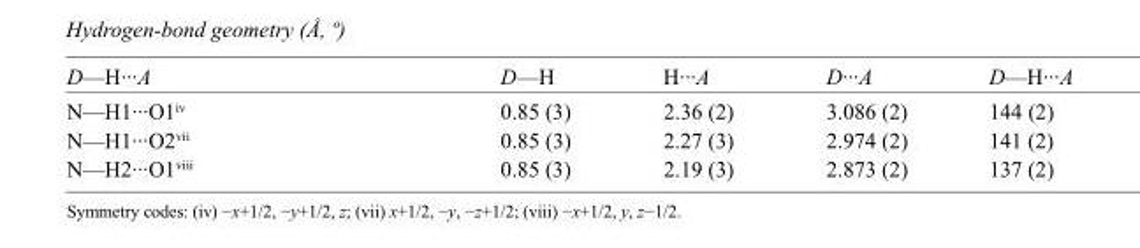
<table><tbody><tr><td>D—H···A</td><td>D—H</td><td>H···A</td><td>D···A</td><td>D—H···A</td></tr><tr><td>N—H1···O1<sup>iv</sup></td><td>0.85 (3)</td><td>2.36 (2)</td><td>3.086 (2)</td><td>144 (2)</td></tr><tr><td>N—H1···O2<sup>vii</sup></td><td>0.85 (3)</td><td>2.27 (3)</td><td>2.974 (2)</td><td>141 (2)</td></tr><tr><td>N—H2···O1<sup>viii</sup></td><td>0.85 (3)</td><td>2.19 (3)</td><td>2.873 (2)</td><td>137 (2)</td></tr></tbody></table>